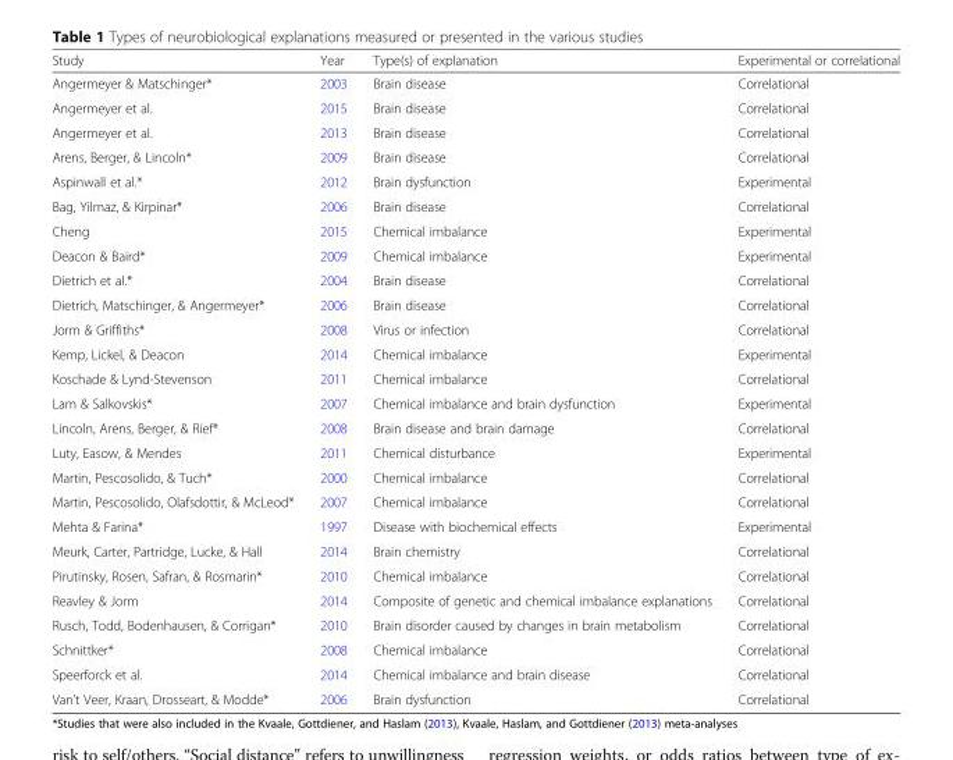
<table><thead><tr><td>Study</td><td>Year</td><td>Type(s) of explanation</td><td>Experimental or correlational</td></tr></thead><tbody><tr><td>Angermeyer &amp; Matschinger*</td><td>2003</td><td>Brain disease</td><td>Correlational</td></tr><tr><td>Angermeyer et al.</td><td>2015</td><td>Brain disease</td><td>Correlational</td></tr><tr><td>Angermeyer et al.</td><td>2013</td><td>Brain disease</td><td>Correlational</td></tr><tr><td>Arens, Berger, &amp; Lincoln*</td><td>2009</td><td>Brain disease</td><td>Correlational</td></tr><tr><td>Aspinwall et al.*</td><td>2012</td><td>Brain dysfunction</td><td>Experimental</td></tr><tr><td>Bag, Yilmaz, &amp; Kirpinar*</td><td>2006</td><td>Brain disease</td><td>Correlational</td></tr><tr><td>Cheng</td><td>2015</td><td>Chemical imbalance</td><td>Experimental</td></tr><tr><td>Deacon &amp; Baird*</td><td>2009</td><td>Chemical imbalance</td><td>Experimental</td></tr><tr><td>Dietrich et al.*</td><td>2004</td><td>Brain disease</td><td>Correlational</td></tr><tr><td>Dietrich, Matschinger, &amp; Angermeyer*</td><td>2006</td><td>Brain disease</td><td>Correlational</td></tr><tr><td>Jorm &amp; Griffiths*</td><td>2008</td><td>Virus or infection</td><td>Correlational</td></tr><tr><td>Kemp, Lickel, &amp; Deacon</td><td>2014</td><td>Chemical imbalance</td><td>Experimental</td></tr><tr><td>Koschade &amp; Lynd-Stevenson</td><td>2011</td><td>Chemical imbalance</td><td>Correlational</td></tr><tr><td>Lam &amp; Salkovskis*</td><td>2007</td><td>Chemical imbalance and brain dysfunction</td><td>Experimental</td></tr><tr><td>Lincoln, Arens, Berger, &amp; Rief*</td><td>2008</td><td>Brain disease and brain damage</td><td>Correlational</td></tr><tr><td>Luty, Easow, &amp; Mendes</td><td>2011</td><td>Chemical disturbance</td><td>Experimental</td></tr><tr><td>Martin, Pescosolido, &amp; Tuch*</td><td>2000</td><td>Chemical imbalance</td><td>Correlational</td></tr><tr><td>Martin, Pescosolido, Olafsdottir, &amp; McLeod*</td><td>2007</td><td>Chemical imbalance</td><td>Correlational</td></tr><tr><td>Mehta &amp; Farina*</td><td>1997</td><td>Disease with biochemical effects</td><td>Experimental</td></tr><tr><td>Meurk, Carter, Partridge, Lucke, &amp; Hall</td><td>2014</td><td>Brain chemistry</td><td>Correlational</td></tr><tr><td>Pirutinsky, Rosen, Safran, &amp; Rosmarin*</td><td>2010</td><td>Chemical imbalance</td><td>Correlational</td></tr><tr><td>Reavley &amp; Jorm</td><td>2014</td><td>Composite of genetic and chemical imbalance explanations</td><td>Correlational</td></tr><tr><td>Rusch, Todd, Bodenhausen, &amp; Corrigan*</td><td>2010</td><td>Brain disorder caused by changes in brain metabolism</td><td>Correlational</td></tr><tr><td>Schnittker*</td><td>2008</td><td>Chemical imbalance</td><td>Correlational</td></tr><tr><td>Speerforck et al.</td><td>2014</td><td>Chemical imbalance and brain disease</td><td>Correlational</td></tr><tr><td>Van’t Veer, Kraan, Drosseart, &amp; Modde*</td><td>2006</td><td>Brain dysfunction</td><td>Correlational</td></tr></tbody></table>